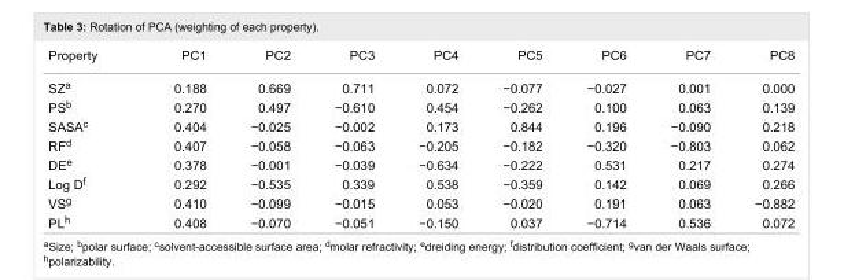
<table><tbody><tr><td>Property</td><td>PC1</td><td>PC2</td><td>PC3</td><td>PC4</td><td>PC5</td><td>PC6</td><td>PC7</td><td>PC8</td></tr><tr><td>SZ<sup>a</sup></td><td>0.188</td><td>0.669</td><td>0.711</td><td>0.072</td><td>−0.077</td><td>−0.027</td><td>0.001</td><td>0.000</td></tr><tr><td>PS<sup>b</sup></td><td>0.270</td><td>0.497</td><td>−0.610</td><td>0.454</td><td>−0.262</td><td>0.100</td><td>0.063</td><td>0.139</td></tr><tr><td>SASA<sup>c</sup></td><td>0.404</td><td>−0.025</td><td>−0.002</td><td>0.173</td><td>0.844</td><td>0.196</td><td>−0.090</td><td>0.218</td></tr><tr><td>RF<sup>d</sup></td><td>0.407</td><td>−0.058</td><td>−0.063</td><td>−0.205</td><td>−0.182</td><td>−0.320</td><td>−0.803</td><td>0.062</td></tr><tr><td>DE<sup>e</sup></td><td>0.378</td><td>−0.001</td><td>−0.039</td><td>−0.634</td><td>−0.222</td><td>0.531</td><td>0.217</td><td>0.274</td></tr><tr><td>Log D<sup>f</sup></td><td>0.292</td><td>−0.535</td><td>0.339</td><td>0.538</td><td>−0.359</td><td>0.142</td><td>0.069</td><td>0.266</td></tr><tr><td>VS<sup>g</sup></td><td>0.410</td><td>−0.099</td><td>−0.015</td><td>0.053</td><td>−0.020</td><td>0.191</td><td>0.063</td><td>−0.882</td></tr><tr><td>PL<sup>h</sup></td><td>0.408</td><td>−0.070</td><td>−0.051</td><td>−0.150</td><td>0.037</td><td>−0.714</td><td>0.536</td><td>0.072</td></tr></tbody></table>